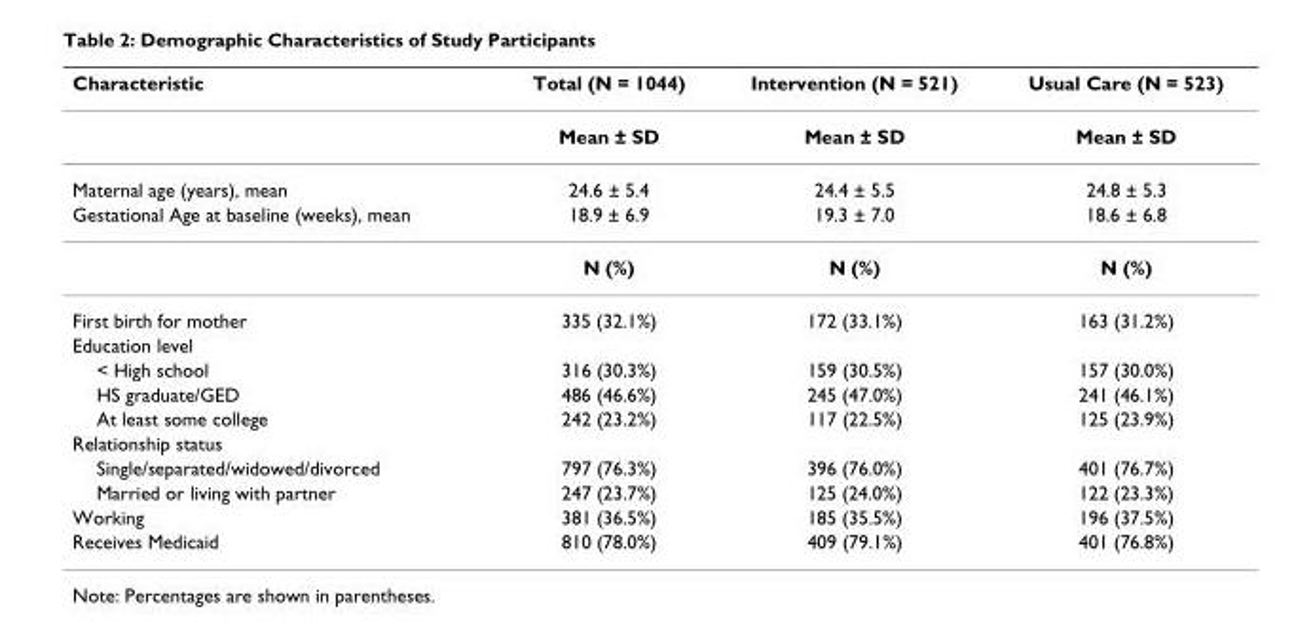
<table><thead><tr><td>Characteristic</td><td>Total (N = 1044)</td><td>Intervention (N = 521)</td><td>Usual Care (N = 523)</td></tr></thead><tbody><tr><td></td><td>Mean ± SD</td><td>Mean ± SD</td><td>Mean ± SD</td></tr><tr><td>Maternal age (years), mean</td><td>24.6 ± 5.4</td><td>24.4 ± 5.5</td><td>24.8 ± 5.3</td></tr><tr><td rowspan="2">Gestational Age at baseline (weeks), mean</td><td>18.9 ± 6.9</td><td>19.3 ± 7.0</td><td>18.6 ± 6.8</td></tr><tr><td>N (%)</td><td>N (%)</td><td>N (%)</td></tr><tr><td>First birth for mother</td><td>335 (32.1%)</td><td>172 (33.1%)</td><td>163 (31.2%)</td></tr><tr><td colspan="4">Education level</td></tr><tr><td>&lt; High school</td><td>316 (30.3%)</td><td>159 (30.5%)</td><td>157 (30.0%)</td></tr><tr><td>HS graduate/GED</td><td>486 (46.6%)</td><td>245 (47.0%)</td><td>241 (46.1%)</td></tr><tr><td>At least some college</td><td>242 (23.2%)</td><td>117 (22.5%)</td><td>125 (23.9%)</td></tr><tr><td colspan="4">Relationship status</td></tr><tr><td>Single/separated/widowed/divorced</td><td>797 (76.3%)</td><td>396 (76.0%)</td><td>401 (76.7%)</td></tr><tr><td>Married or living with partner</td><td>247 (23.7%)</td><td>125 (24.0%)</td><td>122 (23.3%)</td></tr><tr><td>Working</td><td>381 (36.5%)</td><td>185 (35.5%)</td><td>196 (37.5%)</td></tr><tr><td>Receives Medicaid</td><td>810 (78.0%)</td><td>409 (79.1%)</td><td>401 (76.8%)</td></tr></tbody></table>